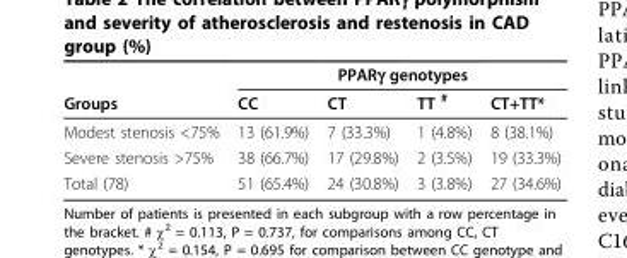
<table><thead><tr><td rowspan="2">Groups</td><td colspan="4">PPARγ genotypes</td></tr><tr><td>CC</td><td>CT</td><td>TT <sup>#</sup></td><td>CT+TT*</td></tr></thead><tbody><tr><td>Modest stenosis &lt;75%</td><td>13 (61.9%)</td><td>7 (33.3%)</td><td>1 (4.8%)</td><td>8 (38.1%)</td></tr><tr><td>Severe stenosis &gt;75%</td><td>38 (66.7%)</td><td>17 (29.8%)</td><td>2 (3.5%)</td><td>19 (33.3%)</td></tr><tr><td>Total (78)</td><td>51 (65.4%)</td><td>24 (30.8%)</td><td>3 (3.8%)</td><td>27 (34.6%)</td></tr></tbody></table>